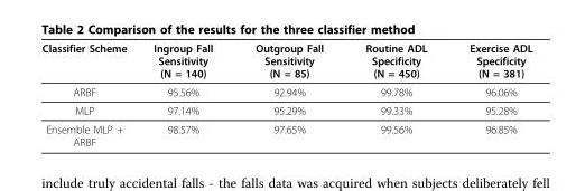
<table><thead><tr><td>Classifier Scheme</td><td>Ingroup Fall Sensitivity (N = 140)</td><td>Outgroup Fall Sensitivity (N = 85)</td><td>Routine ADL Specificity (N = 450)</td><td>Exercise ADL Specificity (N = 381)</td></tr></thead><tbody><tr><td>ARBF</td><td>95.56%</td><td>92.94%</td><td>99.78%</td><td>96.06%</td></tr><tr><td>MLP</td><td>97.14%</td><td>95.29%</td><td>99.33%</td><td>95.28%</td></tr><tr><td>Ensemble MLP + ARBF</td><td>98.57%</td><td>97.65%</td><td>99.56%</td><td>96.85%</td></tr></tbody></table>